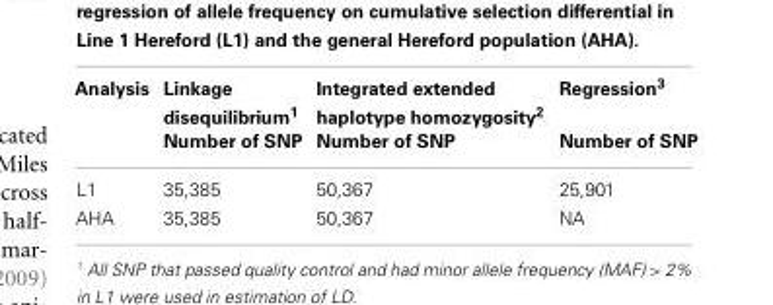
<table><thead><tr><td rowspan="2">Analysis</td><td rowspan="2">Linkage disequilibrium<sup>1</sup> Number of SNP</td><td rowspan="2">Integrated extended haplotype homozygosity<sup>2</sup> Number of SNP</td><td rowspan="2">Regression<sup>3</sup> Number of SNP</td></tr><tr></tr></thead><tbody><tr><td>L1</td><td>35,385</td><td>50,367</td><td>25,901</td></tr><tr><td>AHA</td><td>35,385</td><td>50,367</td><td>NA</td></tr></tbody></table>